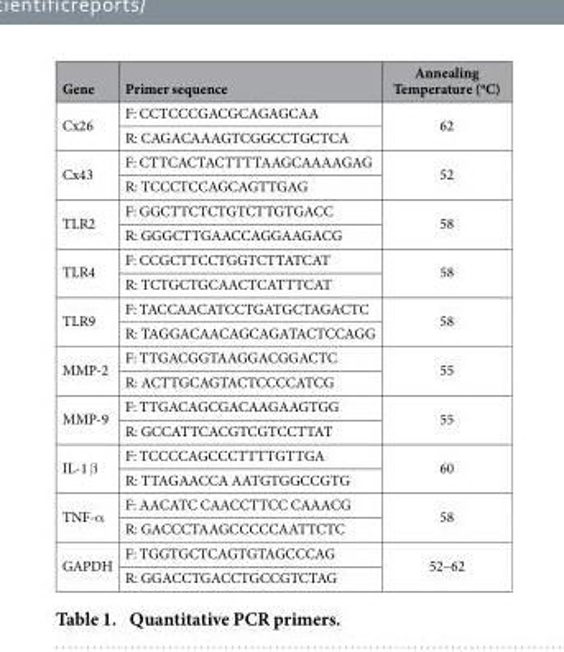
<table><thead><tr><td>Gene</td><td>Primer sequence</td><td>Annealing Temperature (<sup>o</sup>C)</td></tr></thead><tbody><tr><td rowspan="2">Cx26</td><td>F: CCTCCCGACGCAGAGCAA</td><td rowspan="2">62</td></tr><tr><td>R: CAGACAAAGTCGGCCTGCTCA</td></tr><tr><td rowspan="2">Cx43</td><td>F: CTTCACTACTTTTAAGCAAAAGAG</td><td rowspan="2">52</td></tr><tr><td>R: TCCCTCCAGCAGTTGAG</td></tr><tr><td rowspan="2">TLR2</td><td>F: GGCTTCTCTGTCTTGTGACC</td><td rowspan="2">58</td></tr><tr><td>R: GGGCTTGAACCAGGAAGACG</td></tr><tr><td rowspan="2">TLR4</td><td>F: CCGCTTCCTGGTCTTATCAT</td><td rowspan="2">58</td></tr><tr><td>R: TCTGCTGCAACTCATTTCAT</td></tr><tr><td rowspan="2">TLR9</td><td>F: TACCAACATCCTGATGCTAGACTC</td><td rowspan="2">58</td></tr><tr><td>R: TAGGACAACAGCAGATACTCCAGG</td></tr><tr><td rowspan="2">MMP-2</td><td>F: TTGACGGTAAGGACGGACTC</td><td rowspan="2">55</td></tr><tr><td>R: ACTTGCAGTACTCCCCATCG</td></tr><tr><td rowspan="2">MMP-9</td><td>F: TTGACAGCGACAAGAAGTGG</td><td rowspan="2">55</td></tr><tr><td>R: GCCATTCACGTCGTCCTTAT</td></tr><tr><td rowspan="2">IL-1 β</td><td>F: TCCCCAGCCCTTTTGTTGA</td><td rowspan="2">60</td></tr><tr><td>R: TTAGAACCA AATGTGGCCGTG</td></tr><tr><td rowspan="2">TNF-α</td><td>F: AACATC CAACCTTCC CAAACG</td><td rowspan="2">58</td></tr><tr><td>R: GACCCTAAGCCCCCAATTCTC</td></tr><tr><td rowspan="2">GAPDH</td><td>F: TGGTGCTCAGTGTAGCCCAG</td><td rowspan="2">52–62</td></tr><tr><td>R: GGACCTGACCTGCCGTCTAG</td></tr></tbody></table>